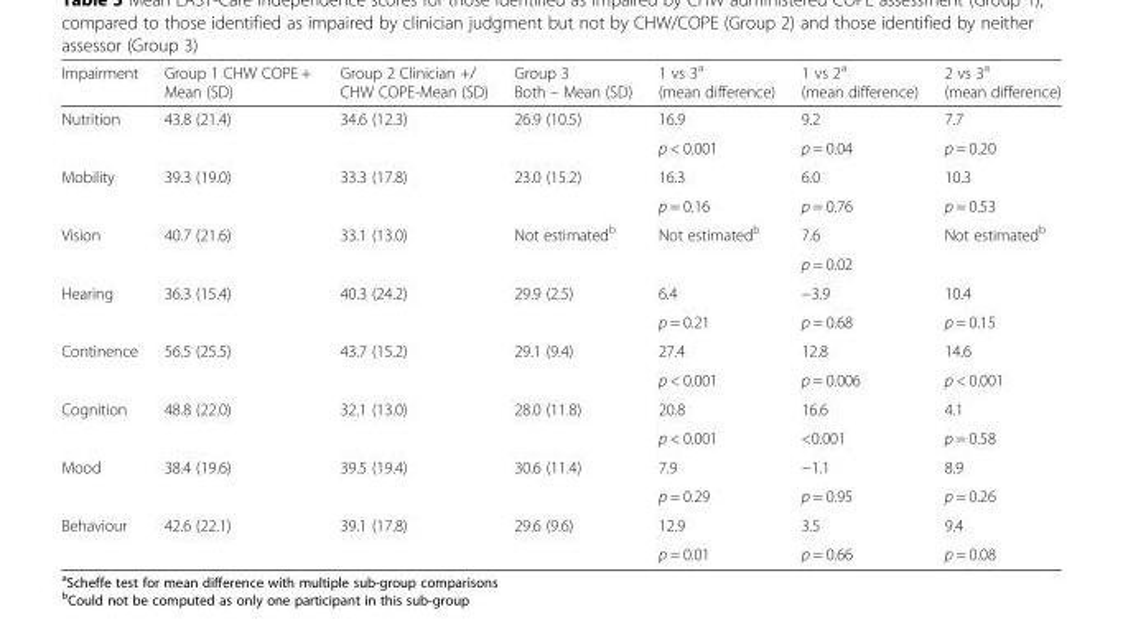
<table><thead><tr><td>Impairment</td><td>Group 1 CHW COPE + Mean (SD)</td><td>Group 2 Clinician +/ CHW COPE-Mean (SD)</td><td>Group 3 Both – Mean (SD)</td><td>1 vs 3<sup>a</sup> (mean difference)</td><td>1 vs 2<sup>a</sup> (mean difference)</td><td>2 vs 3<sup>a</sup> (mean difference)</td></tr></thead><tbody><tr><td rowspan="2">Nutrition</td><td rowspan="2">43.8 (21.4)</td><td rowspan="2">34.6 (12.3)</td><td rowspan="2">26.9 (10.5)</td><td>16.9</td><td>9.2</td><td>7.7</td></tr><tr><td>p &lt; 0.001</td><td>p = 0.04</td><td>p = 0.20</td></tr><tr><td rowspan="2">Mobility</td><td rowspan="2">39.3 (19.0)</td><td rowspan="2">33.3 (17.8)</td><td rowspan="2">23.0 (15.2)</td><td>16.3</td><td>6.0</td><td>10.3</td></tr><tr><td>p = 0.16</td><td>p = 0.76</td><td>p = 0.53</td></tr><tr><td rowspan="2">Vision</td><td rowspan="2">40.7 (21.6)</td><td rowspan="2">33.1 (13.0)</td><td rowspan="2">Not estimated<sup>b</sup></td><td rowspan="2">Not estimated<sup>b</sup></td><td>7.6</td><td rowspan="2">Not estimated<sup>b</sup></td></tr><tr><td>p = 0.02</td></tr><tr><td rowspan="2">Hearing</td><td rowspan="2">36.3 (15.4)</td><td rowspan="2">40.3 (24.2)</td><td rowspan="2">29.9 (2.5)</td><td>6.4</td><td>−3.9</td><td>10.4</td></tr><tr><td>p = 0.21</td><td>p = 0.68</td><td>p = 0.15</td></tr><tr><td rowspan="2">Continence</td><td rowspan="2">56.5 (25.5)</td><td rowspan="2">43.7 (15.2)</td><td rowspan="2">29.1 (9.4)</td><td>27.4</td><td>12.8</td><td>14.6</td></tr><tr><td>p &lt; 0.001</td><td>p = 0.006</td><td>p &lt; 0.001</td></tr><tr><td rowspan="2">Cognition</td><td rowspan="2">48.8 (22.0)</td><td rowspan="2">32.1 (13.0)</td><td rowspan="2">28.0 (11.8)</td><td>20.8</td><td>16.6</td><td>4.1</td></tr><tr><td>p &lt; 0.001</td><td>&lt;0.001</td><td>p = 0.58</td></tr><tr><td rowspan="2">Mood</td><td rowspan="2">38.4 (19.6)</td><td rowspan="2">39.5 (19.4)</td><td rowspan="2">30.6 (11.4)</td><td>7.9</td><td>−1.1</td><td>8.9</td></tr><tr><td>p = 0.29</td><td>p = 0.95</td><td>p = 0.26</td></tr><tr><td rowspan="2">Behaviour</td><td rowspan="2">42.6 (22.1)</td><td rowspan="2">39.1 (17.8)</td><td rowspan="2">29.6 (9.6)</td><td>12.9</td><td>3.5</td><td>9.4</td></tr><tr><td>p = 0.01</td><td>p = 0.66</td><td>p = 0.08</td></tr></tbody></table>